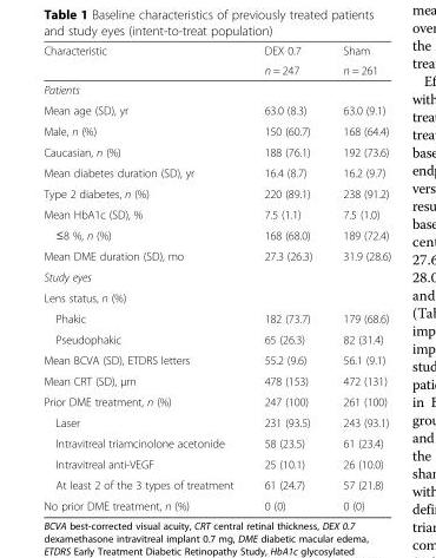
<table><thead><tr><td rowspan="2">Characteristic</td><td rowspan="2">DEX 0.7 n = 247</td><td rowspan="2">Sham n = 261</td></tr><tr></tr></thead><tbody><tr><td colspan="3">Patients</td></tr><tr><td>Mean age (SD), yr</td><td>63.0 (8.3)</td><td>63.0 (9.1)</td></tr><tr><td>Male, n (%)</td><td>150 (60.7)</td><td>168 (64.4)</td></tr><tr><td>Caucasian, n (%)</td><td>188 (76.1)</td><td>192 (73.6)</td></tr><tr><td>Mean diabetes duration (SD), yr</td><td>16.4 (8.7)</td><td>16.2 (9.7)</td></tr><tr><td>Type 2 diabetes, n (%)</td><td>220 (89.1)</td><td>238 (91.2)</td></tr><tr><td>Mean HbA1c (SD), %</td><td>7.5 (1.1)</td><td>7.5 (1.0)</td></tr><tr><td>≤8 %, n (%)</td><td>168 (68.0)</td><td>189 (72.4)</td></tr><tr><td>Mean DME duration (SD), mo</td><td>27.3 (26.3)</td><td>31.9 (28.6)</td></tr><tr><td colspan="3">Study eyes</td></tr><tr><td colspan="3">Lens status, n (%)</td></tr><tr><td>Phakic</td><td>182 (73.7)</td><td>179 (68.6)</td></tr><tr><td>Pseudophakic</td><td>65 (26.3)</td><td>82 (31.4)</td></tr><tr><td>Mean BCVA (SD), ETDRS letters</td><td>55.2 (9.6)</td><td>56.1 (9.1)</td></tr><tr><td>Mean CRT (SD), μm</td><td>478 (153)</td><td>472 (131)</td></tr><tr><td>Prior DME treatment, n (%)</td><td>247 (100)</td><td>261 (100)</td></tr><tr><td>Laser</td><td>231 (93.5)</td><td>243 (93.1)</td></tr><tr><td>Intravitreal triamcinolone acetonide</td><td>58 (23.5)</td><td>61 (23.4)</td></tr><tr><td>Intravitreal anti-VEGF</td><td>25 (10.1)</td><td>26 (10.0)</td></tr><tr><td>At least 2 of the 3 types of treatment</td><td>61 (24.7)</td><td>57 (21.8)</td></tr><tr><td>No prior DME treatment, n (%)</td><td>0 (0)</td><td>0 (0)</td></tr></tbody></table>